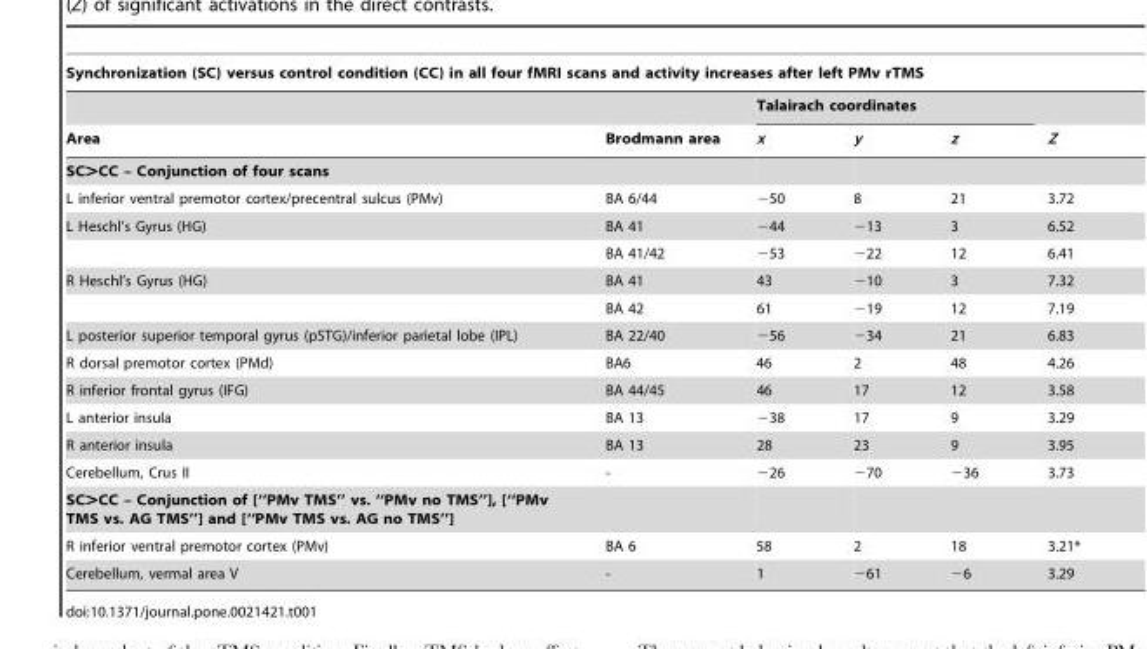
<table><thead><tr><td colspan="6">Synchronization (SC) versus control condition (CC) in all four fMRI scans and activity increases after left PMv rTMS</td></tr><tr><td rowspan="2">Area</td><td rowspan="2">Brodmann area</td><td colspan="3">Talairach coordinates</td><td rowspan="2">Z</td></tr><tr><td>x</td><td>y</td><td>z</td></tr></thead><tbody><tr><td colspan="6">SC&gt;CC – Conjunction of four scans</td></tr><tr><td>L inferior ventral premotor cortex/precentral sulcus (PMv)</td><td>BA 6/44</td><td>−50</td><td>8</td><td>21</td><td>3.72</td></tr><tr><td rowspan="2">L Heschl’s Gyrus (HG)</td><td>BA 41</td><td>−44</td><td>−13</td><td>3</td><td>6.52</td></tr><tr><td>BA 41/42</td><td>−53</td><td>−22</td><td>12</td><td>6.41</td></tr><tr><td rowspan="2">R Heschl’s Gyrus (HG)</td><td>BA 41</td><td>43</td><td>−10</td><td>3</td><td>7.32</td></tr><tr><td>BA 42</td><td>61</td><td>−19</td><td>12</td><td>7.19</td></tr><tr><td>L posterior superior temporal gyrus (pSTG)/inferior parietal lobe (IPL)</td><td>BA 22/40</td><td>−56</td><td>−34</td><td>21</td><td>6.83</td></tr><tr><td>R dorsal premotor cortex (PMd)</td><td>BA6</td><td>46</td><td>2</td><td>48</td><td>4.26</td></tr><tr><td>R inferior frontal gyrus (IFG)</td><td>BA 44/45</td><td>46</td><td>17</td><td>12</td><td>3.58</td></tr><tr><td>L anterior insula</td><td>BA 13</td><td>−38</td><td>17</td><td>9</td><td>3.29</td></tr><tr><td>R anterior insula</td><td>BA 13</td><td>28</td><td>23</td><td>9</td><td>3.95</td></tr><tr><td>Cerebellum, Crus II</td><td>-</td><td>−26</td><td>−70</td><td>−36</td><td>3.73</td></tr><tr><td colspan="6">SC.CC – Conjunction of [‘‘PMv TMS’’ vs. ‘‘PMv no TMS’’], [‘‘PMv TMS vs. AG TMS’’] and [‘‘PMv TMS vs. AG no TMS’’]</td></tr><tr><td>R inferior ventral premotor cortex (PMv)</td><td>BA 6</td><td>58</td><td>2</td><td>18</td><td>3.21*</td></tr><tr><td>Cerebellum, vermal area V</td><td>-</td><td>1</td><td>−61</td><td>−6</td><td>3.29</td></tr></tbody></table>